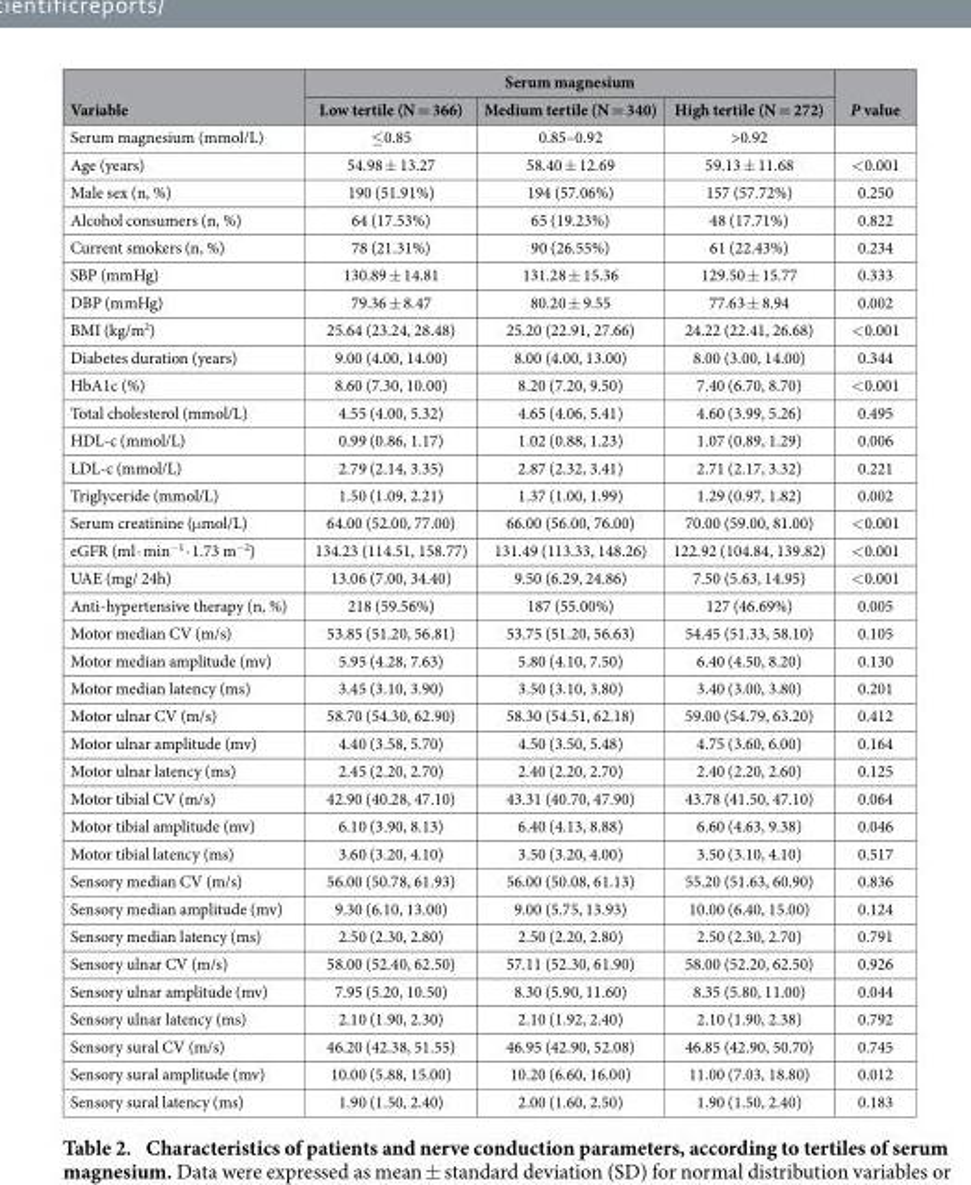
<table><thead><tr><td rowspan="2">Variable</td><td colspan="3">Serum magnesium</td><td rowspan="2">P value</td></tr><tr><td>Low tertile (N = 366)</td><td>Medium tertile (N = 340)</td><td>High tertile (N = 272)</td></tr></thead><tbody><tr><td>Serum magnesium (mmol/L)</td><td>≤ 0.85</td><td>0.85–0.92</td><td>﹥0.92</td><td></td></tr><tr><td>Age (years)</td><td>54.98 ± 13.27</td><td>58.40 ± 12.69</td><td>59.13 ± 11.68</td><td>&lt; 0.001</td></tr><tr><td>Male sex (n, %)</td><td>190 (51.91%)</td><td>194 (57.06%)</td><td>157 (57.72%)</td><td>0.250</td></tr><tr><td>Alcohol consumers (n, %)</td><td>64 (17.53%)</td><td>65 (19.23%)</td><td>48 (17.71%)</td><td>0.822</td></tr><tr><td>Current smokers (n, %)</td><td>78 (21.31%)</td><td>90 (26.55%)</td><td>61 (22.43%)</td><td>0.234</td></tr><tr><td>SBP (mmHg)</td><td>130.89 ± 14.81</td><td>131.28 ± 15.36</td><td>129.50 ± 15.77</td><td>0.333</td></tr><tr><td>DBP (mmHg)</td><td>79.36 ± 8.47</td><td>80.20 ± 9.55</td><td>77.63 ± 8.94</td><td>0.002</td></tr><tr><td>BMI (kg/m<sup>2</sup>)</td><td>25.64 (23.24, 28.48)</td><td>25.20 (22.91, 27.66)</td><td>24.22 (22.41, 26.68)</td><td>&lt; 0.001</td></tr><tr><td>Diabetes duration (years)</td><td>9.00 (4.00, 14.00)</td><td>8.00 (4.00, 13.00)</td><td>8.00 (3.00, 14.00)</td><td>0.344</td></tr><tr><td>HbA1c (%)</td><td>8.60 (7.30, 10.00)</td><td>8.20 (7.20, 9.50)</td><td>7.40 (6.70, 8.70)</td><td>&lt; 0.001</td></tr><tr><td>Total cholesterol (mmol/L)</td><td>4.55 (4.00, 5.32)</td><td>4.65 (4.06, 5.41)</td><td>4.60 (3.99, 5.26)</td><td>0.495</td></tr><tr><td>HDL-c (mmol/L)</td><td>0.99 (0.86, 1.17)</td><td>1.02 (0.88, 1.23)</td><td>1.07 (0.89, 1.29)</td><td>0.006</td></tr><tr><td>LDL-c (mmol/L)</td><td>2.79 (2.14, 3.35)</td><td>2.87 (2.32, 3.41)</td><td>2.71 (2.17, 3.32)</td><td>0.221</td></tr><tr><td>Triglyceride (mmol/L)</td><td>1.50 (1.09, 2.21)</td><td>1.37 (1.00, 1.99)</td><td>1.29 (0.97, 1.82)</td><td>0.002</td></tr><tr><td>Serum creatinine (μ mol/L)</td><td>64.00 (52.00, 77.00)</td><td>66.00 (56.00, 76.00)</td><td>70.00 (59.00, 81.00)</td><td>&lt; 0.001</td></tr><tr><td>eGFR (ml · min<sup>−1</sup> · 1.73 m<sup>−2</sup>)</td><td>134.23 (114.51, 158.77)</td><td>131.49 (113.33, 148.26)</td><td>122.92 (104.84, 139.82)</td><td>&lt; 0.001</td></tr><tr><td>UAE (mg/ 24h)</td><td>13.06 (7.00, 34.40)</td><td>9.50 (6.29, 24.86)</td><td>7.50 (5.63, 14.95)</td><td>&lt; 0.001</td></tr><tr><td>Anti-hypertensive therapy (n, %)</td><td>218 (59.56%)</td><td>187 (55.00%)</td><td>127 (46.69%)</td><td>0.005</td></tr><tr><td>Motor median CV (m/s)</td><td>53.85 (51.20, 56.81)</td><td>53.75 (51.20, 56.63)</td><td>54.45 (51.33, 58.10)</td><td>0.105</td></tr><tr><td>Motor median amplitude (mv)</td><td>5.95 (4.28, 7.63)</td><td>5.80 (4.10, 7.50)</td><td>6.40 (4.50, 8.20)</td><td>0.130</td></tr><tr><td>Motor median latency (ms)</td><td>3.45 (3.10, 3.90)</td><td>3.50 (3.10, 3.80)</td><td>3.40 (3.00, 3.80)</td><td>0.201</td></tr><tr><td>Motor ulnar CV (m/s)</td><td>58.70 (54.30, 62.90)</td><td>58.30 (54.51, 62.18)</td><td>59.00 (54.79, 63.20)</td><td>0.412</td></tr><tr><td>Motor ulnar amplitude (mv)</td><td>4.40 (3.58, 5.70)</td><td>4.50 (3.50, 5.48)</td><td>4.75 (3.60, 6.00)</td><td>0.164</td></tr><tr><td>Motor ulnar latency (ms)</td><td>2.45 (2.20, 2.70)</td><td>2.40 (2.20, 2.70)</td><td>2.40 (2.20, 2.60)</td><td>0.125</td></tr><tr><td>Motor tibial CV (m/s)</td><td>42.90 (40.28, 47.10)</td><td>43.31 (40.70, 47.90)</td><td>43.78 (41.50, 47.10)</td><td>0.064</td></tr><tr><td>Motor tibial amplitude (mv)</td><td>6.10 (3.90, 8.13)</td><td>6.40 (4.13, 8.88)</td><td>6.60 (4.63, 9.38)</td><td>0.046</td></tr><tr><td>Motor tibial latency (ms)</td><td>3.60 (3.20, 4.10)</td><td>3.50 (3.20, 4.00)</td><td>3.50 (3.10, 4.10)</td><td>0.517</td></tr><tr><td>Sensory median CV (m/s)</td><td>56.00 (50.78, 61.93)</td><td>56.00 (50.08, 61.13)</td><td>55.20 (51.63, 60.90)</td><td>0.836</td></tr><tr><td>Sensory median amplitude (mv)</td><td>9.30 (6.10, 13.00)</td><td>9.00 (5.75, 13.93)</td><td>10.00 (6.40, 15.00)</td><td>0.124</td></tr><tr><td>Sensory median latency (ms)</td><td>2.50 (2.30, 2.80)</td><td>2.50 (2.20, 2.80)</td><td>2.50 (2.30, 2.70)</td><td>0.791</td></tr><tr><td>Sensory ulnar CV (m/s)</td><td>58.00 (52.40, 62.50)</td><td>57.11 (52.30, 61.90)</td><td>58.00 (52.20, 62.50)</td><td>0.926</td></tr><tr><td>Sensory ulnar amplitude (mv)</td><td>7.95 (5.20, 10.50)</td><td>8.30 (5.90, 11.60)</td><td>8.35 (5.80, 11.00)</td><td>0.044</td></tr><tr><td>Sensory ulnar latency (ms)</td><td>2.10 (1.90, 2.30)</td><td>2.10 (1.92, 2.40)</td><td>2.10 (1.90, 2.38)</td><td>0.792</td></tr><tr><td>Sensory sural CV (m/s)</td><td>46.20 (42.38, 51.55)</td><td>46.95 (42.90, 52.08)</td><td>46.85 (42.90, 50.70)</td><td>0.745</td></tr><tr><td>Sensory sural amplitude (mv)</td><td>10.00 (5.88, 15.00)</td><td>10.20 (6.60, 16.00)</td><td>11.00 (7.03, 18.80)</td><td>0.012</td></tr><tr><td>Sensory sural latency (ms)</td><td>1.90 (1.50, 2.40)</td><td>2.00 (1.60, 2.50)</td><td>1.90 (1.50, 2.40)</td><td>0.183</td></tr></tbody></table>